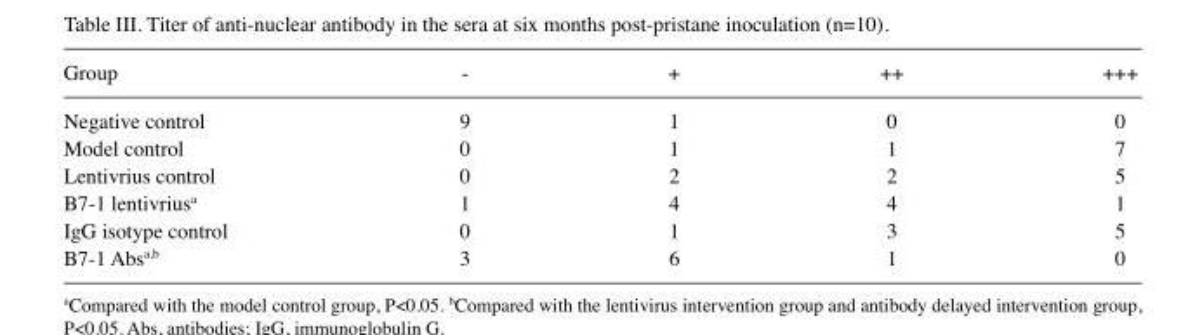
<table><thead><tr><td>Group</td><td>-</td><td>+</td><td>++</td><td>+++</td></tr></thead><tbody><tr><td>Negative control</td><td>9</td><td>1</td><td>0</td><td>0</td></tr><tr><td>Model control</td><td>0</td><td>1</td><td>1</td><td>7</td></tr><tr><td>Lentivrius control</td><td>0</td><td>2</td><td>2</td><td>5</td></tr><tr><td>B7-1 lentivrius<sup>a</sup></td><td>1</td><td>4</td><td>4</td><td>1</td></tr><tr><td>IgG isotype control</td><td>0</td><td>1</td><td>3</td><td>5</td></tr><tr><td>B7-1 Abs<sup>a,b</sup></td><td>3</td><td>6</td><td>1</td><td>0</td></tr></tbody></table>